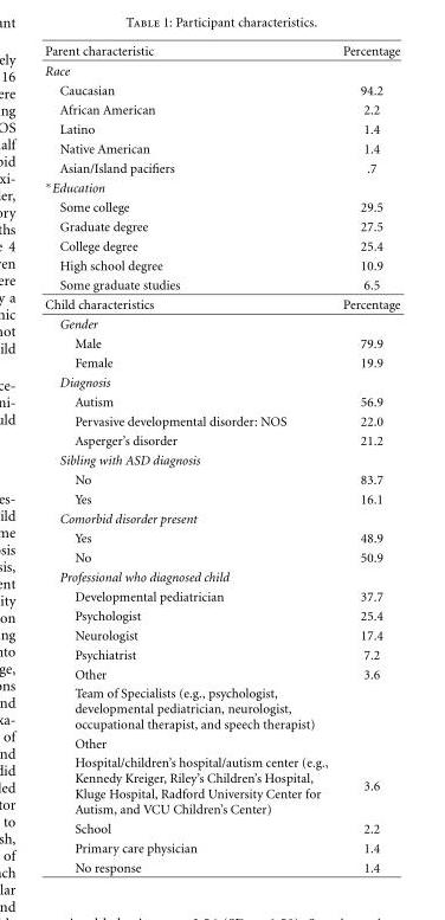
<table><thead><tr><td>Parent characteristic</td><td>Percentage</td></tr></thead><tbody><tr><td colspan="2">Race</td></tr><tr><td>Caucasian</td><td>94.2</td></tr><tr><td>African American</td><td>2.2</td></tr><tr><td>Latino</td><td>1.4</td></tr><tr><td>Native American</td><td>1.4</td></tr><tr><td>Asian/Island pacifiers</td><td>.7</td></tr><tr><td colspan="2">∗Education</td></tr><tr><td>Some college</td><td>29.5</td></tr><tr><td>Graduate degree</td><td>27.5</td></tr><tr><td>College degree</td><td>25.4</td></tr><tr><td>High school degree</td><td>10.9</td></tr><tr><td>Some graduate studies</td><td>6.5</td></tr><tr><td>Child characteristics</td><td>Percentage</td></tr><tr><td colspan="2">Gender</td></tr><tr><td>Male</td><td>79.9</td></tr><tr><td>Female</td><td>19.9</td></tr><tr><td colspan="2">Diagnosis</td></tr><tr><td>Autism</td><td>56.9</td></tr><tr><td>Pervasive developmental disorder: NOS</td><td>22.0</td></tr><tr><td>Asperger’s disorder</td><td>21.2</td></tr><tr><td colspan="2">Sibling with ASD diagnosis</td></tr><tr><td>No</td><td>83.7</td></tr><tr><td>Yes</td><td>16.1</td></tr><tr><td colspan="2">Comorbid disorder present</td></tr><tr><td>Yes</td><td>48.9</td></tr><tr><td>No</td><td>50.9</td></tr><tr><td colspan="2">Professional who diagnosed child</td></tr><tr><td>Developmental pediatrician</td><td>37.7</td></tr><tr><td>Psychologist</td><td>25.4</td></tr><tr><td>Neurologist</td><td>17.4</td></tr><tr><td>Psychiatrist</td><td>7.2</td></tr><tr><td>Other</td><td>3.6</td></tr><tr><td colspan="2">Team of Specialists (e.g., psychologist, developmental pediatrician, neurologist, occupational therapist, and speech therapist)</td></tr><tr><td colspan="2">Other</td></tr><tr><td>Hospital/children’s hospital/autism center (e.g., Kennedy Kreiger, Riley’s Children’s Hospital, Kluge Hospital, Radford University Center for Autism, and VCU Children’s Center)</td><td>3.6</td></tr><tr><td>School</td><td>2.2</td></tr><tr><td>Primary care physician</td><td>1.4</td></tr><tr><td>No response</td><td>1.4</td></tr></tbody></table>